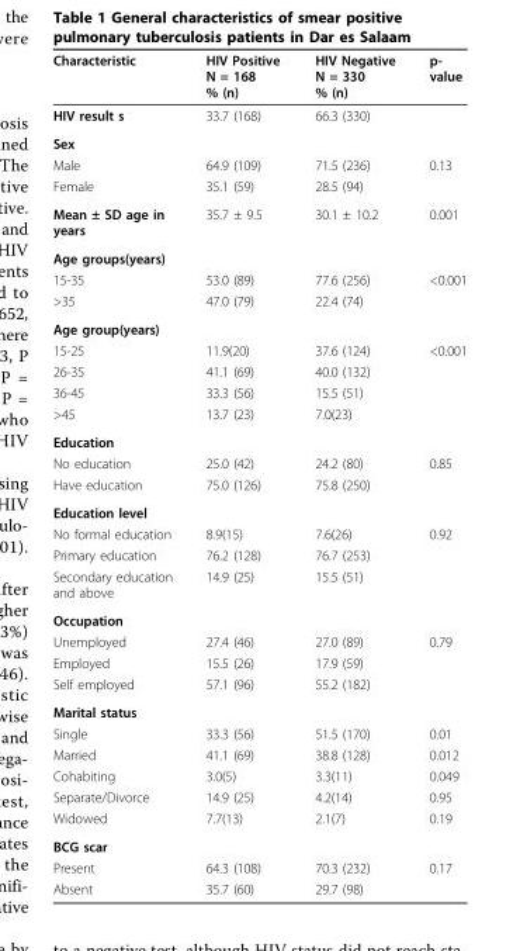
<table><thead><tr><td>Characteristic</td><td>HIV Positive N = 168 % (n)</td><td>HIV Negative N = 330 % (n)</td><td>p- value</td></tr></thead><tbody><tr><td>HIV result s</td><td>33.7 (168)</td><td>66.3 (330)</td><td></td></tr><tr><td colspan="4">Sex</td></tr><tr><td>Male</td><td>64.9 (109)</td><td>71.5 (236)</td><td>0.13</td></tr><tr><td>Female</td><td>35.1 (59)</td><td>28.5 (94)</td><td></td></tr><tr><td>Mean ± SD age in years</td><td>35.7 ± 9.5</td><td>30.1 ± 10.2</td><td>0.001</td></tr><tr><td colspan="4">Age groups(years)</td></tr><tr><td>15-35</td><td>53.0 (89)</td><td>77.6 (256)</td><td>&lt;0.001</td></tr><tr><td>&gt;35</td><td>47.0 (79)</td><td>22.4 (74)</td><td></td></tr><tr><td colspan="4">Age group(years)</td></tr><tr><td>15-25</td><td>11.9(20)</td><td>37.6 (124)</td><td>&lt;0.001</td></tr><tr><td>26-35</td><td>41.1 (69)</td><td>40.0 (132)</td><td></td></tr><tr><td>36-45</td><td>33.3 (56)</td><td>15.5 (51)</td><td></td></tr><tr><td>&gt;45</td><td>13.7 (23)</td><td>7.0(23)</td><td></td></tr><tr><td colspan="4">Education</td></tr><tr><td>No education</td><td>25.0 (42)</td><td>24.2 (80)</td><td>0.85</td></tr><tr><td>Have education</td><td>75.0 (126)</td><td>75.8 (250)</td><td></td></tr><tr><td colspan="4">Education level</td></tr><tr><td>No formal education</td><td>8.9(15)</td><td>7.6(26)</td><td>0.92</td></tr><tr><td>Primary education</td><td>76.2 (128)</td><td>76.7 (253)</td><td></td></tr><tr><td>Secondary education and above</td><td>14.9 (25)</td><td>15.5 (51)</td><td></td></tr><tr><td colspan="4">Occupation</td></tr><tr><td>Unemployed</td><td>27.4 (46)</td><td>27.0 (89)</td><td>0.79</td></tr><tr><td>Employed</td><td>15.5 (26)</td><td>17.9 (59)</td><td></td></tr><tr><td>Self employed</td><td>57.1 (96)</td><td>55.2 (182)</td><td></td></tr><tr><td colspan="4">Marital status</td></tr><tr><td>Single</td><td>33.3 (56)</td><td>51.5 (170)</td><td>0.01</td></tr><tr><td>Married</td><td>41.1 (69)</td><td>38.8 (128)</td><td>0.012</td></tr><tr><td>Cohabiting</td><td>3.0(5)</td><td>3.3(11)</td><td>0.049</td></tr><tr><td>Separate/Divorce</td><td>14.9 (25)</td><td>4.2(14)</td><td>0.95</td></tr><tr><td>Widowed</td><td>7.7(13)</td><td>2.1(7)</td><td>0.19</td></tr><tr><td colspan="4">BCG scar</td></tr><tr><td>Present</td><td>64.3 (108)</td><td>70.3 (232)</td><td>0.17</td></tr><tr><td>Absent</td><td>35.7 (60)</td><td>29.7 (98)</td><td></td></tr></tbody></table>